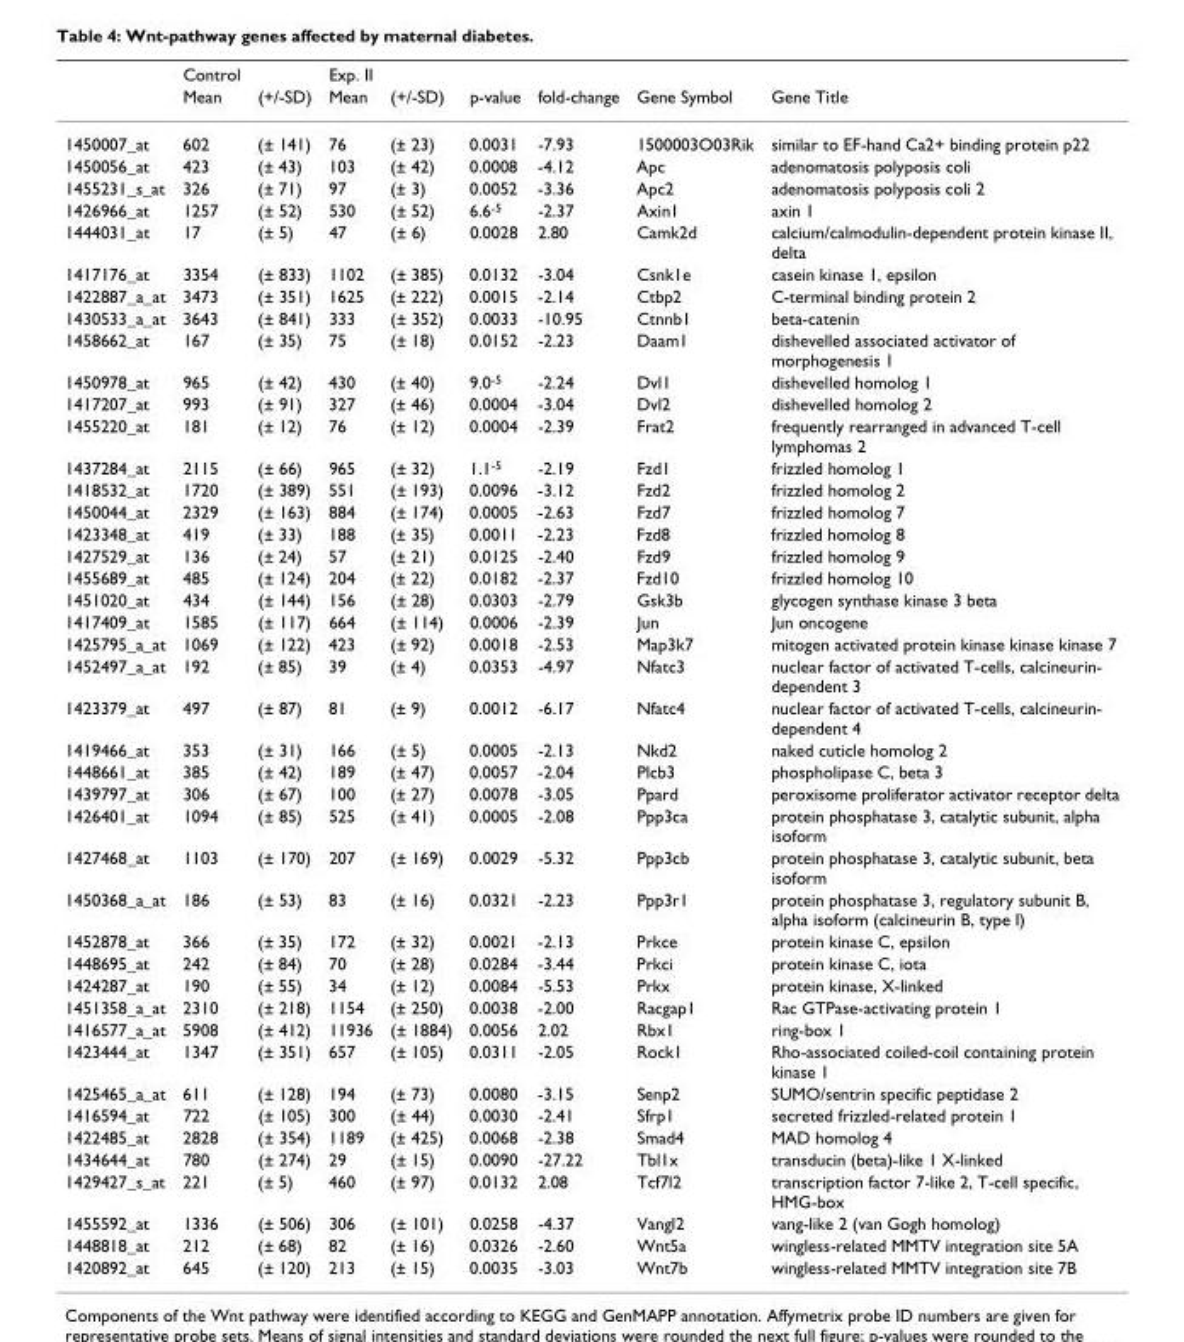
<table><thead><tr><td rowspan="2"></td><td rowspan="2">Control Mean</td><td rowspan="2">(+/-SD)</td><td rowspan="2">Exp. II Mean</td><td rowspan="2">(+/-SD)</td><td rowspan="2">p-value</td><td rowspan="2">fold-change</td><td rowspan="2">Gene Symbol</td><td rowspan="2">Gene Title</td></tr><tr></tr></thead><tbody><tr><td>1450007_at</td><td>602</td><td>(± 141)</td><td>76</td><td>(± 23)</td><td>0.0031</td><td>-7.93</td><td>1500003O03Rik</td><td>similar to EF-hand Ca2+ binding protein p22</td></tr><tr><td>1450056_at</td><td>423</td><td>(± 43)</td><td>103</td><td>(± 42)</td><td>0.0008</td><td>-4.12</td><td>Apc</td><td>adenomatosis polyposis coli</td></tr><tr><td>1455231_s_at</td><td>326</td><td>(± 71)</td><td>97</td><td>(± 3)</td><td>0.0052</td><td>-3.36</td><td>Apc2</td><td>adenomatosis polyposis coli 2</td></tr><tr><td>1426966_at</td><td>1257</td><td>(± 52)</td><td>530</td><td>(± 52)</td><td>6.6<sup>-5</sup></td><td>-2.37</td><td>Axin1</td><td>axin 1</td></tr><tr><td>1444031_at</td><td>17</td><td>(± 5)</td><td>47</td><td>(± 6)</td><td>0.0028</td><td>2.80</td><td>Camk2d</td><td>calcium/calmodulin-dependent protein kinase II, delta</td></tr><tr><td>1417176_at</td><td>3354</td><td>(± 833)</td><td>1102</td><td>(± 385)</td><td>0.0132</td><td>-3.04</td><td>Csnk1e</td><td>casein kinase 1, epsilon</td></tr><tr><td>1422887_a_at</td><td>3473</td><td>(± 351)</td><td>1625</td><td>(± 222)</td><td>0.0015</td><td>-2.14</td><td>Ctbp2</td><td>C-terminal binding protein 2</td></tr><tr><td>1430533_a_at</td><td>3643</td><td>(± 841)</td><td>333</td><td>(± 352)</td><td>0.0033</td><td>-10.95</td><td>Ctnnb1</td><td>beta-catenin</td></tr><tr><td>1458662_at</td><td>167</td><td>(± 35)</td><td>75</td><td>(± 18)</td><td>0.0152</td><td>-2.23</td><td>Daam1</td><td>dishevelled associated activator of morphogenesis 1</td></tr><tr><td>1450978_at</td><td>965</td><td>(± 42)</td><td>430</td><td>(± 40)</td><td>9.0<sup>-5</sup></td><td>-2.24</td><td>Dvl1</td><td>dishevelled homolog 1</td></tr><tr><td>1417207_at</td><td>993</td><td>(± 91)</td><td>327</td><td>(± 46)</td><td>0.0004</td><td>-3.04</td><td>Dvl2</td><td>dishevelled homolog 2</td></tr><tr><td>1455220_at</td><td>181</td><td>(± 12)</td><td>76</td><td>(± 12)</td><td>0.0004</td><td>-2.39</td><td>Frat2</td><td>frequently rearranged in advanced T-cell lymphomas 2</td></tr><tr><td>1437284_at</td><td>2115</td><td>(± 66)</td><td>965</td><td>(± 32)</td><td>1.1<sup>-5</sup></td><td>-2.19</td><td>Fzd1</td><td>frizzled homolog 1</td></tr><tr><td>1418532_at</td><td>1720</td><td>(± 389)</td><td>551</td><td>(± 193)</td><td>0.0096</td><td>-3.12</td><td>Fzd2</td><td>frizzled homolog 2</td></tr><tr><td>1450044_at</td><td>2329</td><td>(± 163)</td><td>884</td><td>(± 174)</td><td>0.0005</td><td>-2.63</td><td>Fzd7</td><td>frizzled homolog 7</td></tr><tr><td>1423348_at</td><td>419</td><td>(± 33)</td><td>188</td><td>(± 35)</td><td>0.0011</td><td>-2.23</td><td>Fzd8</td><td>frizzled homolog 8</td></tr><tr><td>1427529_at</td><td>136</td><td>(± 24)</td><td>57</td><td>(± 21)</td><td>0.0125</td><td>-2.40</td><td>Fzd9</td><td>frizzled homolog 9</td></tr><tr><td>1455689_at</td><td>485</td><td>(± 124)</td><td>204</td><td>(± 22)</td><td>0.0182</td><td>-2.37</td><td>Fzd10</td><td>frizzled homolog 10</td></tr><tr><td>1451020_at</td><td>434</td><td>(± 144)</td><td>156</td><td>(± 28)</td><td>0.0303</td><td>-2.79</td><td>Gsk3b</td><td>glycogen synthase kinase 3 beta</td></tr><tr><td>1417409_at</td><td>1585</td><td>(± 117)</td><td>664</td><td>(± 114)</td><td>0.0006</td><td>-2.39</td><td>Jun</td><td>Jun oncogene</td></tr><tr><td>1425795_a_at</td><td>1069</td><td>(± 122)</td><td>423</td><td>(± 92)</td><td>0.0018</td><td>-2.53</td><td>Map3k7</td><td>mitogen activated protein kinase kinase kinase 7</td></tr><tr><td>1452497_a_at</td><td>192</td><td>(± 85)</td><td>39</td><td>(± 4)</td><td>0.0353</td><td>-4.97</td><td>Nfatc3</td><td>nuclear factor of activated T-cells, calcineurin- dependent 3</td></tr><tr><td>1423379_at</td><td>497</td><td>(± 87)</td><td>81</td><td>(± 9)</td><td>0.0012</td><td>-6.17</td><td>Nfatc4</td><td>nuclear factor of activated T-cells, calcineurin- dependent 4</td></tr><tr><td>1419466_at</td><td>353</td><td>(± 31)</td><td>166</td><td>(± 5)</td><td>0.0005</td><td>-2.13</td><td>Nkd2</td><td>naked cuticle homolog 2</td></tr><tr><td>1448661_at</td><td>385</td><td>(± 42)</td><td>189</td><td>(± 47)</td><td>0.0057</td><td>-2.04</td><td>Plcb3</td><td>phospholipase C, beta 3</td></tr><tr><td>1439797_at</td><td>306</td><td>(± 67)</td><td>100</td><td>(± 27)</td><td>0.0078</td><td>-3.05</td><td>Ppard</td><td>peroxisome proliferator activator receptor delta</td></tr><tr><td>1426401_at</td><td>1094</td><td>(± 85)</td><td>525</td><td>(± 41)</td><td>0.0005</td><td>-2.08</td><td>Ppp3ca</td><td>protein phosphatase 3, catalytic subunit, alpha isoform</td></tr><tr><td>1427468_at</td><td>1103</td><td>(± 170)</td><td>207</td><td>(± 169)</td><td>0.0029</td><td>-5.32</td><td>Ppp3cb</td><td>protein phosphatase 3, catalytic subunit, beta isoform</td></tr><tr><td>1450368_a_at</td><td>186</td><td>(± 53)</td><td>83</td><td>(± 16)</td><td>0.0321</td><td>-2.23</td><td>Ppp3r1</td><td>protein phosphatase 3, regulatory subunit B, alpha isoform (calcineurin B, type I)</td></tr><tr><td>1452878_at</td><td>366</td><td>(± 35)</td><td>172</td><td>(± 32)</td><td>0.0021</td><td>-2.13</td><td>Prkce</td><td>protein kinase C, epsilon</td></tr><tr><td>1448695_at</td><td>242</td><td>(± 84)</td><td>70</td><td>(± 28)</td><td>0.0284</td><td>-3.44</td><td>Prkci</td><td>protein kinase C, iota</td></tr><tr><td>1424287_at</td><td>190</td><td>(± 55)</td><td>34</td><td>(± 12)</td><td>0.0084</td><td>-5.53</td><td>Prkx</td><td>protein kinase, X-linked</td></tr><tr><td>1451358_a_at</td><td>2310</td><td>(± 218)</td><td>1154</td><td>(± 250)</td><td>0.0038</td><td>-2.00</td><td>Racgap1</td><td>Rac GTPase-activating protein 1</td></tr><tr><td>1416577_a_at</td><td>5908</td><td>(± 412)</td><td>11936</td><td>(± 1884)</td><td>0.0056</td><td>2.02</td><td>Rbx1</td><td>ring-box 1</td></tr><tr><td>1423444_at</td><td>1347</td><td>(± 351)</td><td>657</td><td>(± 105)</td><td>0.0311</td><td>-2.05</td><td>Rock1</td><td>Rho-associated coiled-coil containing protein kinase 1</td></tr><tr><td>1425465_a_at</td><td>611</td><td>(± 128)</td><td>194</td><td>(± 73)</td><td>0.0080</td><td>-3.15</td><td>Senp2</td><td>SUMO/sentrin specific peptidase 2</td></tr><tr><td>1416594_at</td><td>722</td><td>(± 105)</td><td>300</td><td>(± 44)</td><td>0.0030</td><td>-2.41</td><td>Sfrp1</td><td>secreted frizzled-related protein 1</td></tr><tr><td>1422485_at</td><td>2828</td><td>(± 354)</td><td>1189</td><td>(± 425)</td><td>0.0068</td><td>-2.38</td><td>Smad4</td><td>MAD homolog 4</td></tr><tr><td>1434644_at</td><td>780</td><td>(± 274)</td><td>29</td><td>(± 15)</td><td>0.0090</td><td>-27.22</td><td>Tbl1x</td><td>transducin (beta)-like 1 X-linked</td></tr><tr><td>1429427_s_at</td><td>221</td><td>(± 5)</td><td>460</td><td>(± 97)</td><td>0.0132</td><td>2.08</td><td>Tcf7l2</td><td>transcription factor 7-like 2, T-cell specific, HMG-box</td></tr><tr><td>1455592_at</td><td>1336</td><td>(± 506)</td><td>306</td><td>(± 101)</td><td>0.0258</td><td>-4.37</td><td>Vangl2</td><td>vang-like 2 (van Gogh homolog)</td></tr><tr><td>1448818_at</td><td>212</td><td>(± 68)</td><td>82</td><td>(± 16)</td><td>0.0326</td><td>-2.60</td><td>Wnt5a</td><td>wingless-related MMTV integration site 5A</td></tr><tr><td>1420892_at</td><td>645</td><td>(± 120)</td><td>213</td><td>(± 15)</td><td>0.0035</td><td>-3.03</td><td>Wnt7b</td><td>wingless-related MMTV integration site 7B</td></tr></tbody></table>